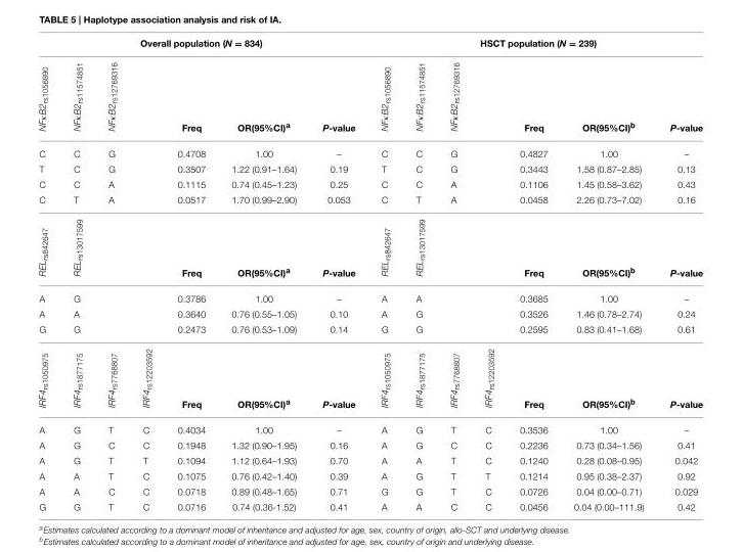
<table><thead><tr><td colspan="7">Overall population (N = 834)</td><td colspan="7">HSCT population (N = 239)</td></tr><tr><td>NFκB2rs1056890</td><td>NFκB2rs11574851</td><td>NFκB2rs12769316</td><td></td><td>Freq</td><td>OR(95%CI)<sup>a</sup></td><td>P-value</td><td>NFκB2rs1056890</td><td>NFκB2rs11574851</td><td>NFκB2rs12769316</td><td></td><td>Freq</td><td>OR(95%CI)<sup>b</sup></td><td>P-value</td></tr></thead><tbody><tr><td>C</td><td>C</td><td>G</td><td></td><td>0.4708</td><td>1.00</td><td>–</td><td>C</td><td>C</td><td>G</td><td></td><td>0.4827</td><td>1.00</td><td>–</td></tr><tr><td>T</td><td>C</td><td>G</td><td></td><td>0.3507</td><td>1.22 (0.91–1.64)</td><td>0.19</td><td>T</td><td>C</td><td>G</td><td></td><td>0.3443</td><td>1.58 (0.87–2.85)</td><td>0.13</td></tr><tr><td>C</td><td>C</td><td>A</td><td></td><td>0.1115</td><td>0.74 (0.45–1.23)</td><td>0.25</td><td>C</td><td>C</td><td>A</td><td></td><td>0.1106</td><td>1.45 (0.58–3.62)</td><td>0.43</td></tr><tr><td>C</td><td>T</td><td>A</td><td></td><td>0.0517</td><td>1.70 (0.99–2.90)</td><td>0.053</td><td>C</td><td>T</td><td>A</td><td></td><td>0.0458</td><td>2.26 (0.73–7.02)</td><td>0.16</td></tr><tr><td>RELrs842647</td><td>RELrs13017599</td><td></td><td></td><td>Freq</td><td>OR(95%CI)<sup>a</sup></td><td>P-value</td><td>RELrs842647</td><td>RELrs13017599</td><td></td><td></td><td>Freq</td><td>OR(95%CI)<sup>b</sup></td><td>P-value</td></tr><tr><td>A</td><td>G</td><td></td><td></td><td>0.3786</td><td>1.00</td><td>–</td><td>A</td><td>A</td><td></td><td></td><td>0.3685</td><td>1.00</td><td>–</td></tr><tr><td>A</td><td>A</td><td></td><td></td><td>0.3640</td><td>0.76 (0.55–1.05)</td><td>0.10</td><td>A</td><td>G</td><td></td><td></td><td>0.3526</td><td>1.46 (0.78–2.74)</td><td>0.24</td></tr><tr><td>G</td><td>G</td><td></td><td></td><td>0.2473</td><td>0.76 (0.53–1.09)</td><td>0.14</td><td>G</td><td>G</td><td></td><td></td><td>0.2595</td><td>0.83 (0.41–1.68)</td><td>0.61</td></tr><tr><td>IRF4rs1050975</td><td>IRF4rs1877175</td><td>IRF4rs7768807</td><td>IRF4rs12203592</td><td>Freq</td><td>OR(95%CI)<sup>a</sup></td><td>P-value</td><td>IRF4rs1050975</td><td>IRF4rs1877175</td><td>IRF4rs7768807</td><td>IRF4rs12203592</td><td>Freq</td><td>OR(95%CI)<sup>b</sup></td><td>P-value</td></tr><tr><td>A</td><td>G</td><td>T</td><td>C</td><td>0.4034</td><td>1.00</td><td>–</td><td>A</td><td>G</td><td>T</td><td>C</td><td>0.3536</td><td>1.00</td><td>–</td></tr><tr><td>A</td><td>G</td><td>C</td><td>C</td><td>0.1948</td><td>1.32 (0.90–1.95)</td><td>0.16</td><td>A</td><td>G</td><td>C</td><td>C</td><td>0.2236</td><td>0.73 (0.34–1.56)</td><td>0.41</td></tr><tr><td>A</td><td>G</td><td>T</td><td>T</td><td>0.1094</td><td>1.12 (0.64–1.93)</td><td>0.70</td><td>A</td><td>A</td><td>T</td><td>C</td><td>0.1240</td><td>0.28 (0.08–0.95)</td><td>0.042</td></tr><tr><td>A</td><td>A</td><td>T</td><td>C</td><td>0.1075</td><td>0.76 (0.42–1.40)</td><td>0.39</td><td>A</td><td>G</td><td>T</td><td>T</td><td>0.1214</td><td>0.95 (0.38–2.37)</td><td>0.92</td></tr><tr><td>A</td><td>A</td><td>C</td><td>C</td><td>0.0718</td><td>0.89 (0.48–1.65)</td><td>0.71</td><td>G</td><td>G</td><td>T</td><td>C</td><td>0.0726</td><td>0.04 (0.00–0.71)</td><td>0.029</td></tr><tr><td>G</td><td>G</td><td>T</td><td>C</td><td>0.0716</td><td>0.74 (0.36-1.52)</td><td>0.41</td><td>A</td><td>A</td><td>C</td><td>C</td><td>0.0456</td><td>0.04 (0.00–111.9)</td><td>0.42</td></tr></tbody></table>